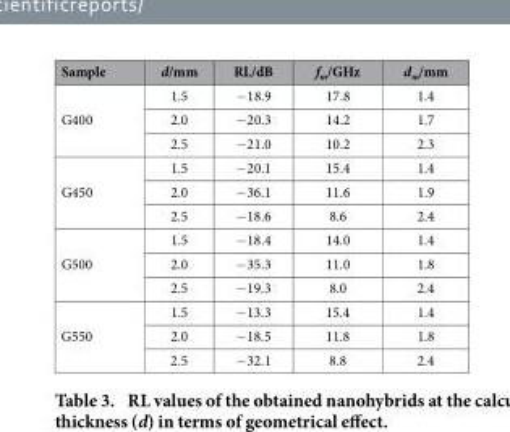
<table><thead><tr><td>Sample</td><td>d/mm</td><td>RL/dB</td><td>f<sub>m</sub>/GHz</td><td>d<sub>m</sub>/mm</td></tr></thead><tbody><tr><td rowspan="3">G400</td><td>1.5</td><td>− 18.9</td><td>17.8</td><td>1.4</td></tr><tr><td>2.0</td><td>− 20.3</td><td>14.2</td><td>1.7</td></tr><tr><td>2.5</td><td>− 21.0</td><td>10.2</td><td>2.3</td></tr><tr><td rowspan="3">G450</td><td>1.5</td><td>− 20.1</td><td>15.4</td><td>1.4</td></tr><tr><td>2.0</td><td>− 36.1</td><td>11.6</td><td>1.9</td></tr><tr><td>2.5</td><td>− 18.6</td><td>8.6</td><td>2.4</td></tr><tr><td rowspan="3">G500</td><td>1.5</td><td>− 18.4</td><td>14.0</td><td>1.4</td></tr><tr><td>2.0</td><td>− 35.3</td><td>11.0</td><td>1.8</td></tr><tr><td>2.5</td><td>− 19.3</td><td>8.0</td><td>2.4</td></tr><tr><td rowspan="3">G550</td><td>1.5</td><td>− 13.3</td><td>15.4</td><td>1.4</td></tr><tr><td>2.0</td><td>− 18.5</td><td>11.8</td><td>1.8</td></tr><tr><td>2.5</td><td>− 32.1</td><td>8.8</td><td>2.4</td></tr></tbody></table>